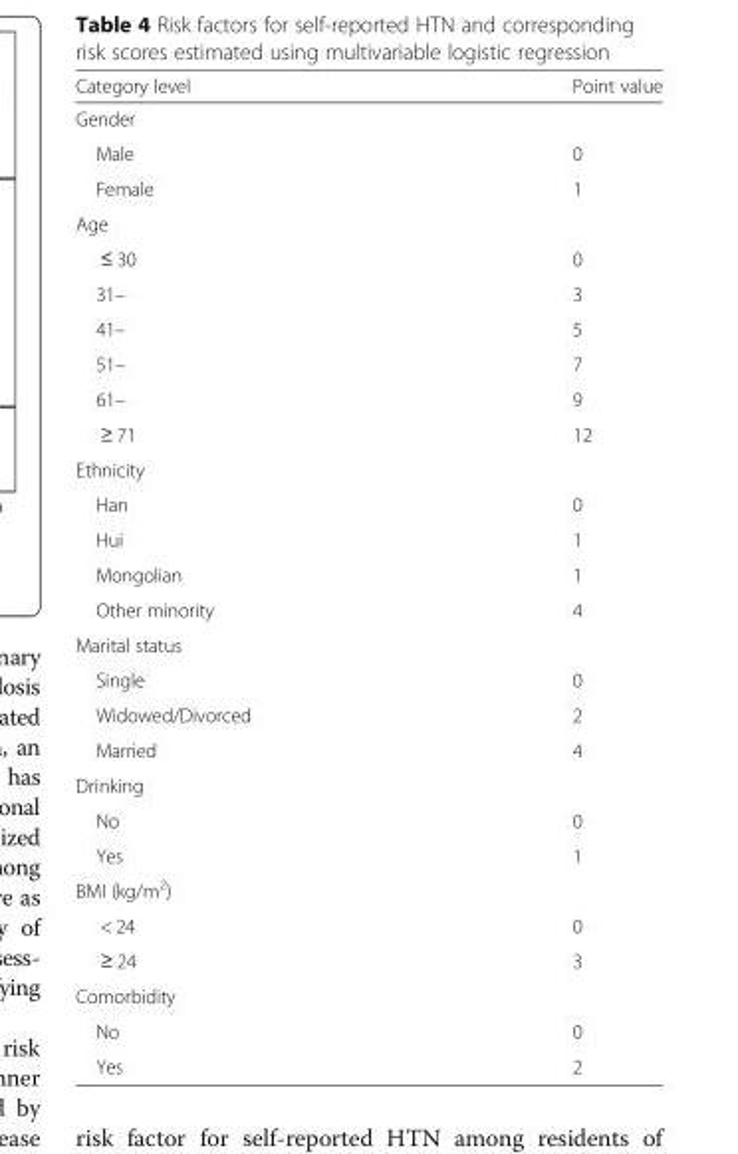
<table><thead><tr><td>Category level</td><td>Point value</td></tr></thead><tbody><tr><td colspan="2">Gender</td></tr><tr><td>Male</td><td>0</td></tr><tr><td>Female</td><td>1</td></tr><tr><td colspan="2">Age</td></tr><tr><td>≤ 30</td><td>0</td></tr><tr><td>31–</td><td>3</td></tr><tr><td>41–</td><td>5</td></tr><tr><td>51–</td><td>7</td></tr><tr><td>61–</td><td>9</td></tr><tr><td>≥ 71</td><td>12</td></tr><tr><td colspan="2">Ethnicity</td></tr><tr><td>Han</td><td>0</td></tr><tr><td>Hui</td><td>1</td></tr><tr><td>Mongolian</td><td>1</td></tr><tr><td>Other minority</td><td>4</td></tr><tr><td colspan="2">Marital status</td></tr><tr><td>Single</td><td>0</td></tr><tr><td>Widowed/Divorced</td><td>2</td></tr><tr><td>Married</td><td>4</td></tr><tr><td colspan="2">Drinking</td></tr><tr><td>No</td><td>0</td></tr><tr><td>Yes</td><td>1</td></tr><tr><td colspan="2">BMI (kg/m<sup>2</sup>)</td></tr><tr><td>&lt; 24</td><td>0</td></tr><tr><td>≥ 24</td><td>3</td></tr><tr><td colspan="2">Comorbidity</td></tr><tr><td>No</td><td>0</td></tr><tr><td>Yes</td><td>2</td></tr></tbody></table>